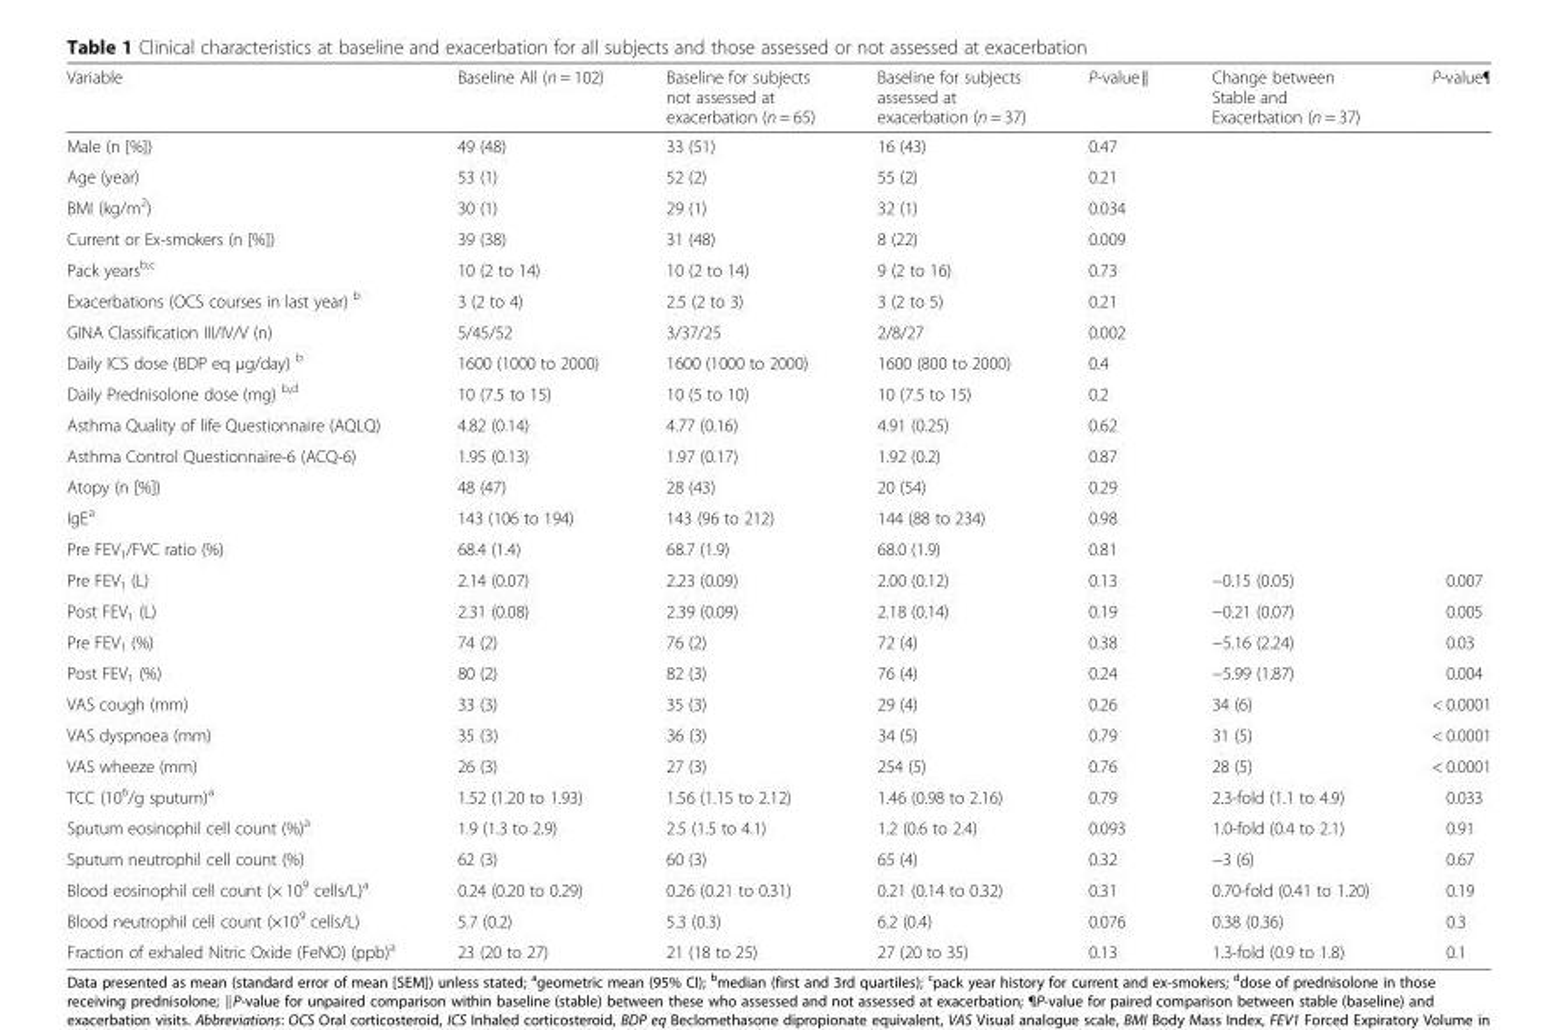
<table><thead><tr><td>Variable</td><td>Baseline All (n = 102)</td><td>Baseline for subjects not assessed at exacerbation (n = 65)</td><td>Baseline for subjects assessed at exacerbation (n = 37)</td><td>P-value∥</td><td>Change between Stable and Exacerbation (n = 37)</td><td>P-value¶</td></tr></thead><tbody><tr><td>Male (n [%])</td><td>49 (48)</td><td>33 (51)</td><td>16 (43)</td><td>0.47</td><td></td><td></td></tr><tr><td>Age (year)</td><td>53 (1)</td><td>52 (2)</td><td>55 (2)</td><td>0.21</td><td></td><td></td></tr><tr><td>BMI (kg/m<sup>2</sup>)</td><td>30 (1)</td><td>29 (1)</td><td>32 (1)</td><td>0.034</td><td></td><td></td></tr><tr><td>Current or Ex-smokers (n [%])</td><td>39 (38)</td><td>31 (48)</td><td>8 (22)</td><td>0.009</td><td></td><td></td></tr><tr><td>Pack years<sup>b,c</sup></td><td>10 (2 to 14)</td><td>10 (2 to 14)</td><td>9 (2 to 16)</td><td>0.73</td><td></td><td></td></tr><tr><td>Exacerbations (OCS courses in last year) <sup>b</sup></td><td>3 (2 to 4)</td><td>2.5 (2 to 3)</td><td>3 (2 to 5)</td><td>0.21</td><td></td><td></td></tr><tr><td>GINA Classification III/IV/V (n)</td><td>5/45/52</td><td>3/37/25</td><td>2/8/27</td><td>0.002</td><td></td><td></td></tr><tr><td>Daily ICS dose (BDP eq μg/day) <sup>b</sup></td><td>1600 (1000 to 2000)</td><td>1600 (1000 to 2000)</td><td>1600 (800 to 2000)</td><td>0.4</td><td></td><td></td></tr><tr><td>Daily Prednisolone dose (mg) <sup>b,d</sup></td><td>10 (7.5 to 15)</td><td>10 (5 to 10)</td><td>10 (7.5 to 15)</td><td>0.2</td><td></td><td></td></tr><tr><td>Asthma Quality of life Questionnaire (AQLQ)</td><td>4.82 (0.14)</td><td>4.77 (0.16)</td><td>4.91 (0.25)</td><td>0.62</td><td></td><td></td></tr><tr><td>Asthma Control Questionnaire-6 (ACQ-6)</td><td>1.95 (0.13)</td><td>1.97 (0.17)</td><td>1.92 (0.2)</td><td>0.87</td><td></td><td></td></tr><tr><td>Atopy (n [%])</td><td>48 (47)</td><td>28 (43)</td><td>20 (54)</td><td>0.29</td><td></td><td></td></tr><tr><td>IgE<sup>a</sup></td><td>143 (106 to 194)</td><td>143 (96 to 212)</td><td>144 (88 to 234)</td><td>0.98</td><td></td><td></td></tr><tr><td>Pre FEV<sub>1</sub>/FVC ratio (%)</td><td>68.4 (1.4)</td><td>68.7 (1.9)</td><td>68.0 (1.9)</td><td>0.81</td><td></td><td></td></tr><tr><td>Pre FEV<sub>1</sub> (L)</td><td>2.14 (0.07)</td><td>2.23 (0.09)</td><td>2.00 (0.12)</td><td>0.13</td><td>−0.15 (0.05)</td><td>0.007</td></tr><tr><td>Post FEV<sub>1</sub> (L)</td><td>2.31 (0.08)</td><td>2.39 (0.09)</td><td>2.18 (0.14)</td><td>0.19</td><td>−0.21 (0.07)</td><td>0.005</td></tr><tr><td>Pre FEV<sub>1</sub> (%)</td><td>74 (2)</td><td>76 (2)</td><td>72 (4)</td><td>0.38</td><td>−5.16 (2.24)</td><td>0.03</td></tr><tr><td>Post FEV<sub>1</sub> (%)</td><td>80 (2)</td><td>82 (3)</td><td>76 (4)</td><td>0.24</td><td>−5.99 (1.87)</td><td>0.004</td></tr><tr><td>VAS cough (mm)</td><td>33 (3)</td><td>35 (3)</td><td>29 (4)</td><td>0.26</td><td>34 (6)</td><td>&lt; 0.0001</td></tr><tr><td>VAS dyspnoea (mm)</td><td>35 (3)</td><td>36 (3)</td><td>34 (5)</td><td>0.79</td><td>31 (5)</td><td>&lt; 0.0001</td></tr><tr><td>VAS wheeze (mm)</td><td>26 (3)</td><td>27 (3)</td><td>254 (5)</td><td>0.76</td><td>28 (5)</td><td>&lt; 0.0001</td></tr><tr><td>TCC (10<sup>6</sup>/g sputum)<sup>a</sup></td><td>1.52 (1.20 to 1.93)</td><td>1.56 (1.15 to 2.12)</td><td>1.46 (0.98 to 2.16)</td><td>0.79</td><td>2.3-fold (1.1 to 4.9)</td><td>0.033</td></tr><tr><td>Sputum eosinophil cell count (%)<sup>a</sup></td><td>1.9 (1.3 to 2.9)</td><td>2.5 (1.5 to 4.1)</td><td>1.2 (0.6 to 2.4)</td><td>0.093</td><td>1.0-fold (0.4 to 2.1)</td><td>0.91</td></tr><tr><td>Sputum neutrophil cell count (%)</td><td>62 (3)</td><td>60 (3)</td><td>65 (4)</td><td>0.32</td><td>−3 (6)</td><td>0.67</td></tr><tr><td>Blood eosinophil cell count (× 10<sup>9</sup> cells/L)<sup>a</sup></td><td>0.24 (0.20 to 0.29)</td><td>0.26 (0.21 to 0.31)</td><td>0.21 (0.14 to 0.32)</td><td>0.31</td><td>0.70-fold (0.41 to 1.20)</td><td>0.19</td></tr><tr><td>Blood neutrophil cell count (×10<sup>9</sup> cells/L)</td><td>5.7 (0.2)</td><td>5.3 (0.3)</td><td>6.2 (0.4)</td><td>0.076</td><td>0.38 (0.36)</td><td>0.3</td></tr><tr><td>Fraction of exhaled Nitric Oxide (FeNO) (ppb)<sup>a</sup></td><td>23 (20 to 27)</td><td>21 (18 to 25)</td><td>27 (20 to 35)</td><td>0.13</td><td>1.3-fold (0.9 to 1.8)</td><td>0.1</td></tr></tbody></table>